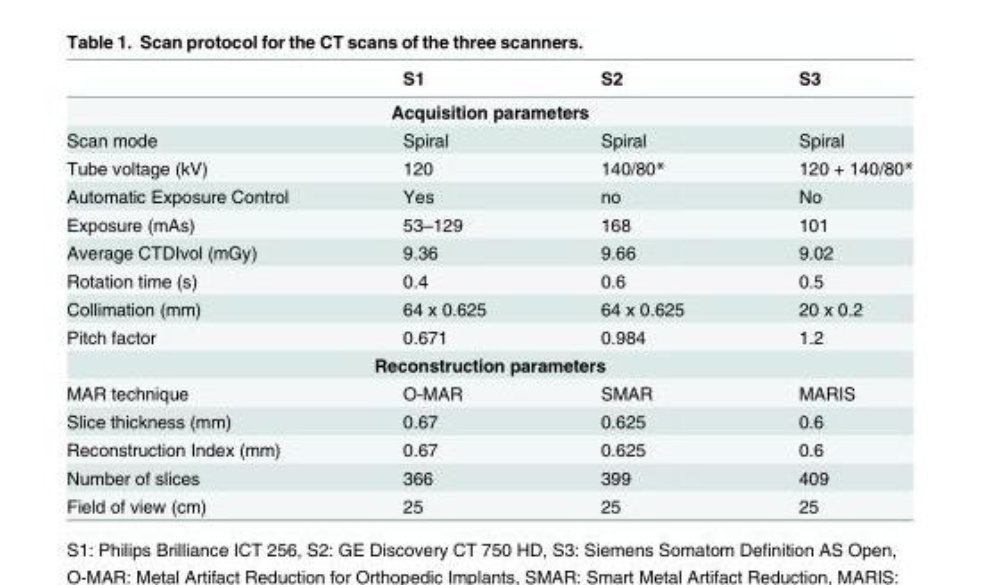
<table><thead><tr><td></td><td>S1</td><td>S2</td><td>S3</td></tr></thead><tbody><tr><td colspan="4">Acquisition parameters</td></tr><tr><td>Scan mode</td><td>Spiral</td><td>Spiral</td><td>Spiral</td></tr><tr><td>Tube voltage (kV)</td><td>120</td><td>140/80*</td><td>120 + 140/80*</td></tr><tr><td>Automatic Exposure Control</td><td>Yes</td><td>no</td><td>No</td></tr><tr><td>Exposure (mAs)</td><td>53–129</td><td>168</td><td>101</td></tr><tr><td>Average CTDIvol (mGy)</td><td>9.36</td><td>9.66</td><td>9.02</td></tr><tr><td>Rotation time (s)</td><td>0.4</td><td>0.6</td><td>0.5</td></tr><tr><td>Collimation (mm)</td><td>64 x 0.625</td><td>64 x 0.625</td><td>20 x 0.2</td></tr><tr><td>Pitch factor</td><td>0.671</td><td>0.984</td><td>1.2</td></tr><tr><td colspan="4">Reconstruction parameters</td></tr><tr><td>MAR technique</td><td>O-MAR</td><td>SMAR</td><td>MARIS</td></tr><tr><td>Slice thickness (mm)</td><td>0.67</td><td>0.625</td><td>0.6</td></tr><tr><td>Reconstruction Index (mm)</td><td>0.67</td><td>0.625</td><td>0.6</td></tr><tr><td>Number of slices</td><td>366</td><td>399</td><td>409</td></tr><tr><td>Field of view (cm)</td><td>25</td><td>25</td><td>25</td></tr></tbody></table>